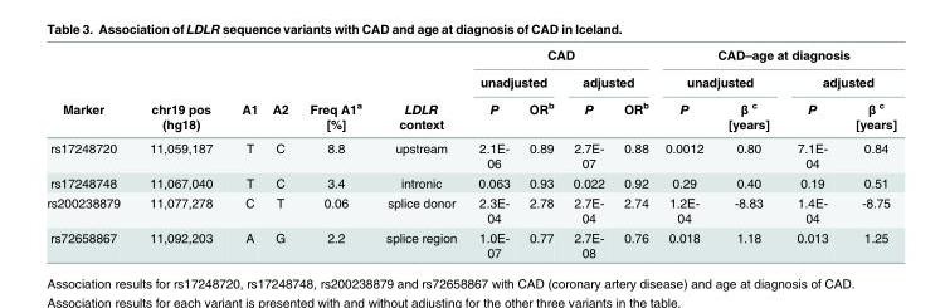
<table><thead><tr><td rowspan="3">Marker</td><td rowspan="3">chr19 pos (hg18)</td><td rowspan="3">A1</td><td rowspan="3">A2</td><td rowspan="3">Freq A1<sup>a</sup> [%]</td><td rowspan="3">LDLR context</td><td colspan="4">CAD</td><td colspan="4">CAD–age at diagnosis</td></tr><tr><td colspan="2">unadjusted</td><td colspan="2">adjusted</td><td colspan="2">unadjusted</td><td colspan="2">adjusted</td></tr><tr><td>P</td><td>OR<sup>b</sup></td><td>P</td><td>OR<sup>b</sup></td><td>P</td><td>β <sup>c</sup> [years]</td><td>P</td><td>β <sup>c</sup> [years]</td></tr></thead><tbody><tr><td>rs17248720</td><td>11,059,187</td><td>T</td><td>C</td><td>8.8</td><td>upstream</td><td>2.1E- 06</td><td>0.89</td><td>2.7E- 07</td><td>0.88</td><td>0.0012</td><td>0.80</td><td>7.1E- 04</td><td>0.84</td></tr><tr><td>rs17248748</td><td>11,067,040</td><td>T</td><td>C</td><td>3.4</td><td>intronic</td><td>0.063</td><td>0.93</td><td>0.022</td><td>0.92</td><td>0.29</td><td>0.40</td><td>0.19</td><td>0.51</td></tr><tr><td>rs200238879</td><td>11,077,278</td><td>C</td><td>T</td><td>0.06</td><td>splice donor</td><td>2.3E- 04</td><td>2.78</td><td>2.7E- 04</td><td>2.74</td><td>1.2E- 04</td><td>-8.83</td><td>1.4E- 04</td><td>-8.75</td></tr><tr><td>rs72658867</td><td>11,092,203</td><td>A</td><td>G</td><td>2.2</td><td>splice region</td><td>1.0E- 07</td><td>0.77</td><td>2.7E- 08</td><td>0.76</td><td>0.018</td><td>1.18</td><td>0.013</td><td>1.25</td></tr></tbody></table>